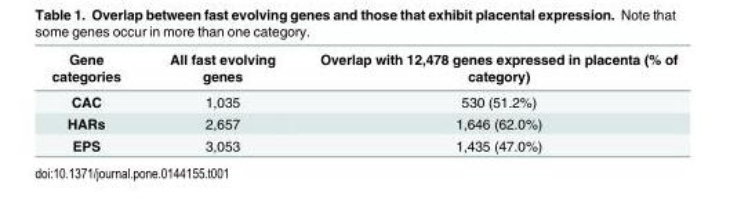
<table><thead><tr><td>Gene categories</td><td>All fast evolving genes</td><td>Overlap with 12,478 genes expressed in placenta (% of category)</td></tr></thead><tbody><tr><td>CAC</td><td>1,035</td><td>530 (51.2%)</td></tr><tr><td>HARs</td><td>2,657</td><td>1,646 (62.0%)</td></tr><tr><td>EPS</td><td>3,053</td><td>1,435 (47.0%)</td></tr></tbody></table>